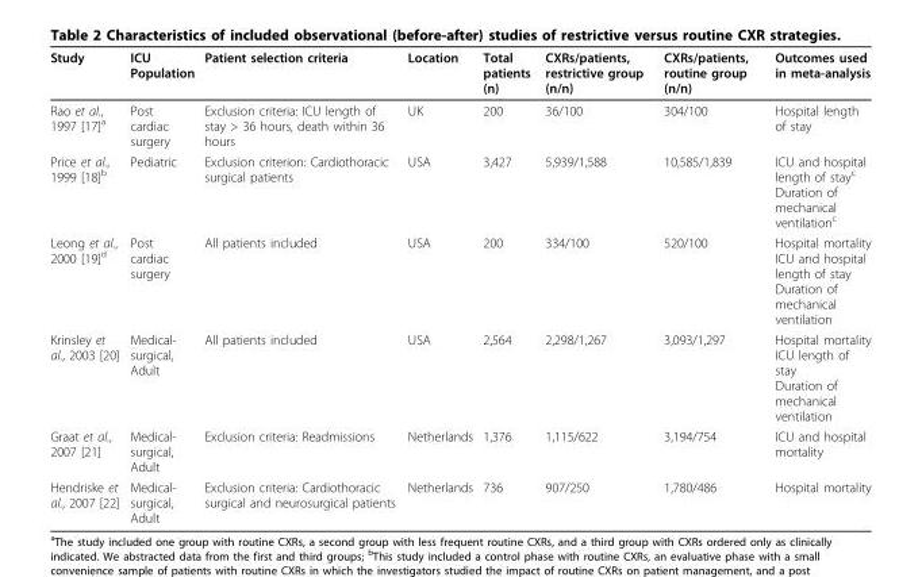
<table><thead><tr><td>Study</td><td>ICU Population</td><td>Patient selection criteria</td><td>Location</td><td>Total patients (n)</td><td>CXRs/patients, restrictive group (n/n)</td><td>CXRs/patients, routine group (n/n)</td><td>Outcomes used in meta-analysis</td></tr></thead><tbody><tr><td>Rao et al., 1997 [17]<sup>a</sup></td><td>Post cardiac surgery</td><td>Exclusion criteria: ICU length of stay &gt; 36 hours, death within 36 hours</td><td>UK</td><td>200</td><td>36/100</td><td>304/100</td><td>Hospital length of stay</td></tr><tr><td>Price et al., 1999 [18]<sup>b</sup></td><td>Pediatric</td><td>Exclusion criterion: Cardiothoracic surgical patients</td><td>USA</td><td>3,427</td><td>5,939/1,588</td><td>10,585/1,839</td><td>ICU and hospital length of stay<sup>c</sup> Duration of mechanical ventilation<sup>c</sup></td></tr><tr><td>Leong et al., 2000 [19]<sup>d</sup></td><td>Post cardiac surgery</td><td>All patients included</td><td>USA</td><td>200</td><td>334/100</td><td>520/100</td><td>Hospital mortality ICU and hospital length of stay Duration of mechanical ventilation</td></tr><tr><td>Krinsley et al., 2003 [20]</td><td>Medical- surgical, Adult</td><td>All patients included</td><td>USA</td><td>2,564</td><td>2,298/1,267</td><td>3,093/1,297</td><td>Hospital mortality ICU length of stay Duration of mechanical ventilation</td></tr><tr><td>Graat et al., 2007 [21]</td><td>Medical- surgical, Adult</td><td>Exclusion criteria: Readmissions</td><td>Netherlands</td><td>1,376</td><td>1,115/622</td><td>3,194/754</td><td>ICU and hospital mortality</td></tr><tr><td>Hendriske et al., 2007 [22]</td><td>Medical- surgical, Adult</td><td>Exclusion criteria: Cardiothoracic surgical and neurosurgical patients</td><td>Netherlands</td><td>736</td><td>907/250</td><td>1,780/486</td><td>Hospital mortality</td></tr></tbody></table>